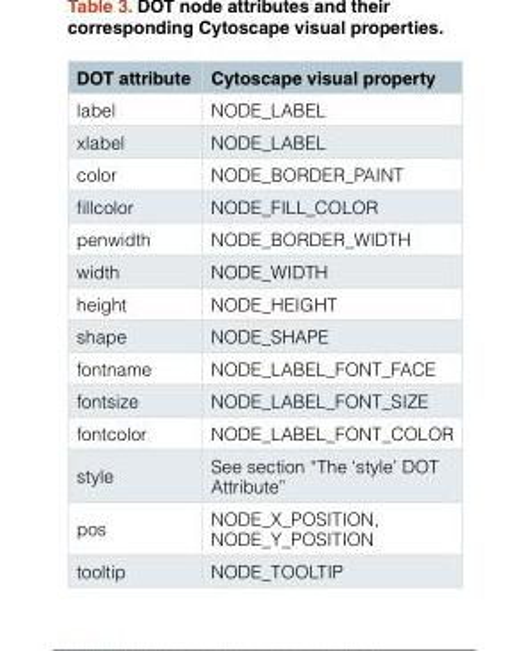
<table><thead><tr><td>DOT attribute</td><td>Cytoscape visual property</td></tr></thead><tbody><tr><td>label</td><td>NODE_LABEL</td></tr><tr><td>xlabel</td><td>NODE_LABEL</td></tr><tr><td>color</td><td>NODE_BORDER_PAINT</td></tr><tr><td>fillcolor</td><td>NODE_FILL_COLOR</td></tr><tr><td>penwidth</td><td>NODE_BORDER_WIDTH</td></tr><tr><td>width</td><td>NODE_WIDTH</td></tr><tr><td>height</td><td>NODE_HEIGHT</td></tr><tr><td>shape</td><td>NODE_SHAPE</td></tr><tr><td>fontname</td><td>NODE_LABEL_FONT_FACE</td></tr><tr><td>fontsize</td><td>NODE_LABEL_FONT_SIZE</td></tr><tr><td>fontcolor</td><td>NODE_LABEL_FONT_COLOR</td></tr><tr><td>style</td><td>See section “The ‘style’ DOT Attribute”</td></tr><tr><td>pos</td><td>NODE_X_POSITION, NODE_Y_POSITION</td></tr><tr><td>tooltip</td><td>NODE_TOOLTIP</td></tr></tbody></table>